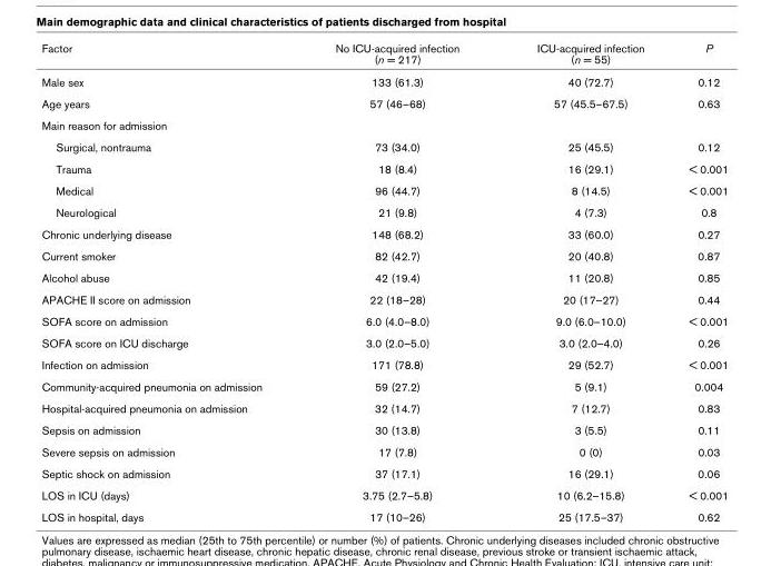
<table><thead><tr><td>Factor</td><td>No ICU-acquired infection (n = 217)</td><td>ICU-acquired infection (n = 55)</td><td>P</td></tr></thead><tbody><tr><td>Male sex</td><td>133 (61.3)</td><td>40 (72.7)</td><td>0.12</td></tr><tr><td>Age years</td><td>57 (46–68)</td><td>57 (45.5–67.5)</td><td>0.63</td></tr><tr><td colspan="4">Main reason for admission</td></tr><tr><td>Surgical, nontrauma</td><td>73 (34.0)</td><td>25 (45.5)</td><td>0.12</td></tr><tr><td>Trauma</td><td>18 (8.4)</td><td>16 (29.1)</td><td>&lt; 0.001</td></tr><tr><td>Medical</td><td>96 (44.7)</td><td>8 (14.5)</td><td>&lt; 0.001</td></tr><tr><td>Neurological</td><td>21 (9.8)</td><td>4 (7.3)</td><td>0.8</td></tr><tr><td>Chronic underlying disease</td><td>148 (68.2)</td><td>33 (60.0)</td><td>0.27</td></tr><tr><td>Current smoker</td><td>82 (42.7)</td><td>20 (40.8)</td><td>0.87</td></tr><tr><td>Alcohol abuse</td><td>42 (19.4)</td><td>11 (20.8)</td><td>0.85</td></tr><tr><td>APACHE II score on admission</td><td>22 (18–28)</td><td>20 (17–27)</td><td>0.44</td></tr><tr><td>SOFA score on admission</td><td>6.0 (4.0–8.0)</td><td>9.0 (6.0–10.0)</td><td>&lt; 0.001</td></tr><tr><td>SOFA score on ICU discharge</td><td>3.0 (2.0–5.0)</td><td>3.0 (2.0–4.0)</td><td>0.26</td></tr><tr><td>Infection on admission</td><td>171 (78.8)</td><td>29 (52.7)</td><td>&lt; 0.001</td></tr><tr><td>Community-acquired pneumonia on admission</td><td>59 (27.2)</td><td>5 (9.1)</td><td>0.004</td></tr><tr><td>Hospital-acquired pneumonia on admission</td><td>32 (14.7)</td><td>7 (12.7)</td><td>0.83</td></tr><tr><td>Sepsis on admission</td><td>30 (13.8)</td><td>3 (5.5)</td><td>0.11</td></tr><tr><td>Severe sepsis on admission</td><td>17 (7.8)</td><td>0 (0)</td><td>0.03</td></tr><tr><td>Septic shock on admission</td><td>37 (17.1)</td><td>16 (29.1)</td><td>0.06</td></tr><tr><td>LOS in ICU (days)</td><td>3.75 (2.7–5.8)</td><td>10 (6.2–15.8)</td><td>&lt; 0.001</td></tr><tr><td>LOS in hospital, days</td><td>17 (10–26)</td><td>25 (17.5–37)</td><td>0.62</td></tr></tbody></table>